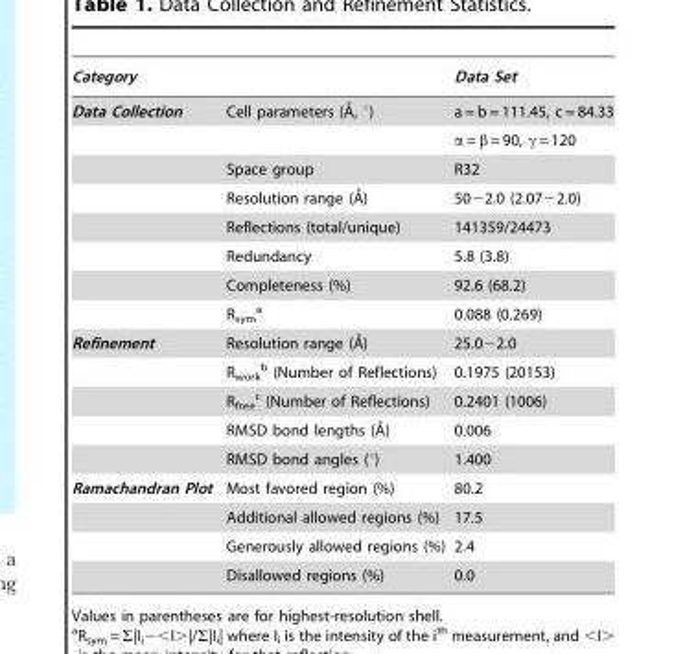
<table><thead><tr><td>Category</td><td></td><td>Data Set</td></tr></thead><tbody><tr><td rowspan="8">Data Collection</td><td>Cell parameters (A˚, u)</td><td>a = b = 111.45, c = 84.33</td></tr><tr><td></td><td>α = β = 90, γ = 120</td></tr><tr><td>Space group</td><td>R32</td></tr><tr><td>Resolution range (A˚)</td><td>50−2.0 (2.07−2.0)</td></tr><tr><td>Reflections (total/unique)</td><td>141359/24473</td></tr><tr><td>Redundancy</td><td>5.8 (3.8)</td></tr><tr><td>Completeness (%)</td><td>92.6 (68.2)</td></tr><tr><td>R<sub>sym</sub> a</td><td>0.088 (0.269)</td></tr><tr><td rowspan="5">Refinement</td><td>Resolution range (A˚)</td><td>25.0−2.0</td></tr><tr><td>R<sub>work</sub> b (Number of Reflections)</td><td>0.1975 (20153)</td></tr><tr><td>R<sub>free</sub> c (Number of Reflections)</td><td>0.2401 (1006)</td></tr><tr><td>RMSD bond lengths (A˚)</td><td>0.006</td></tr><tr><td>RMSD bond angles (°)</td><td>1.400</td></tr><tr><td rowspan="4">Ramachandran Plot</td><td>Most favored region (%)</td><td>80.2</td></tr><tr><td>Additional allowed regions (%)</td><td>17.5</td></tr><tr><td>Generously allowed regions (%)</td><td>2.4</td></tr><tr><td>Disallowed regions (%)</td><td>0.0</td></tr></tbody></table>